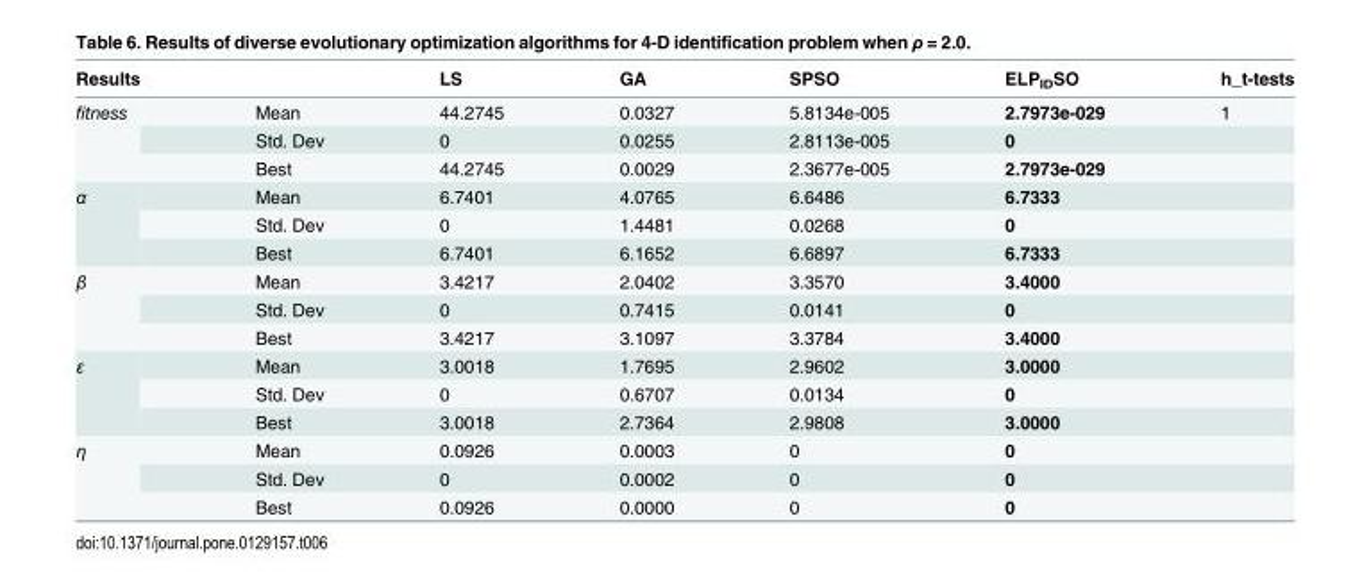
<table><thead><tr><td>Results</td><td></td><td>LS</td><td>GA</td><td>SPSO</td><td>ELP<sub>ID</sub>SO</td><td>h_t-tests</td></tr></thead><tbody><tr><td rowspan="3">fitness</td><td>Mean</td><td>44.2745</td><td>0.0327</td><td>5.8134e-005</td><td>2.7973e-029</td><td>1</td></tr><tr><td>Std. Dev</td><td>0</td><td>0.0255</td><td>2.8113e-005</td><td>0</td><td></td></tr><tr><td>Best</td><td>44.2745</td><td>0.0029</td><td>2.3677e-005</td><td>2.7973e-029</td><td></td></tr><tr><td rowspan="3">α</td><td>Mean</td><td>6.7401</td><td>4.0765</td><td>6.6486</td><td>6.7333</td><td></td></tr><tr><td>Std. Dev</td><td>0</td><td>1.4481</td><td>0.0268</td><td>0</td><td></td></tr><tr><td>Best</td><td>6.7401</td><td>6.1652</td><td>6.6897</td><td>6.7333</td><td></td></tr><tr><td rowspan="3">β</td><td>Mean</td><td>3.4217</td><td>2.0402</td><td>3.3570</td><td>3.4000</td><td></td></tr><tr><td>Std. Dev</td><td>0</td><td>0.7415</td><td>0.0141</td><td>0</td><td></td></tr><tr><td>Best</td><td>3.4217</td><td>3.1097</td><td>3.3784</td><td>3.4000</td><td></td></tr><tr><td rowspan="3">ε</td><td>Mean</td><td>3.0018</td><td>1.7695</td><td>2.9602</td><td>3.0000</td><td></td></tr><tr><td>Std. Dev</td><td>0</td><td>0.6707</td><td>0.0134</td><td>0</td><td></td></tr><tr><td>Best</td><td>3.0018</td><td>2.7364</td><td>2.9808</td><td>3.0000</td><td></td></tr><tr><td rowspan="3">η</td><td>Mean</td><td>0.0926</td><td>0.0003</td><td>0</td><td>0</td><td></td></tr><tr><td>Std. Dev</td><td>0</td><td>0.0002</td><td>0</td><td>0</td><td></td></tr><tr><td>Best</td><td>0.0926</td><td>0.0000</td><td>0</td><td>0</td><td></td></tr></tbody></table>